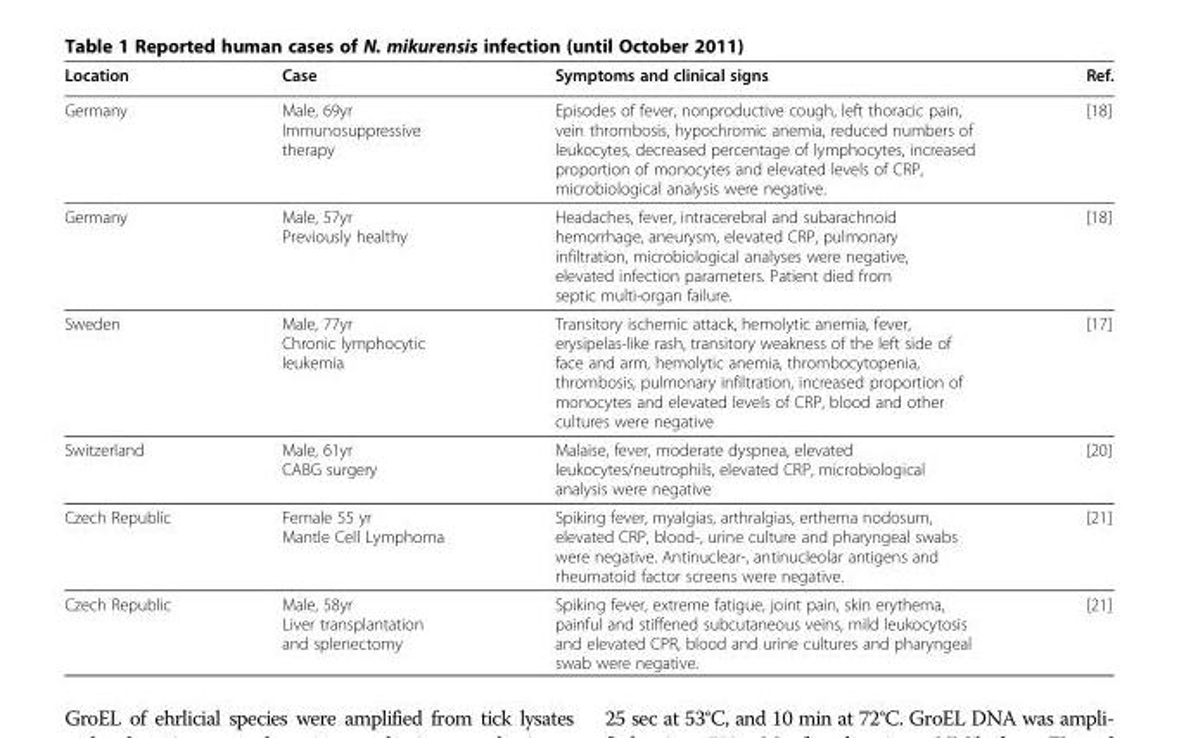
<table><thead><tr><td>Location</td><td>Case</td><td>Symptoms and clinical signs</td><td>Ref.</td></tr></thead><tbody><tr><td>Germany</td><td>Male, 69yr Immunosuppressive therapy</td><td>Episodes of fever, nonproductive cough, left thoracic pain, vein thrombosis, hypochromic anemia, reduced numbers of leukocytes, decreased percentage of lymphocytes, increased proportion of monocytes and elevated levels of CRP, microbiological analysis were negative.</td><td>[18]</td></tr><tr><td>Germany</td><td>Male, 57yr Previously healthy</td><td>Headaches, fever, intracerebral and subarachnoid hemorrhage, aneurysm, elevated CRP, pulmonary infiltration, microbiological analyses were negative, elevated infection parameters. Patient died from septic multi-organ failure.</td><td>[18]</td></tr><tr><td>Sweden</td><td>Male, 77yr Chronic lymphocytic leukemia</td><td>Transitory ischemic attack, hemolytic anemia, fever, erysipelas-like rash, transitory weakness of the left side of face and arm, hemolytic anemia, thrombocytopenia, thrombosis, pulmonary infiltration, increased proportion of monocytes and elevated levels of CRP, blood and other cultures were negative</td><td>[17]</td></tr><tr><td>Switzerland</td><td>Male, 61yr CABG surgery</td><td>Malaise, fever, moderate dyspnea, elevated leukocytes/neutrophils, elevated CRP, microbiological analysis were negative</td><td>[20]</td></tr><tr><td>Czech Republic</td><td>Female 55 yr Mantle Cell Lymphoma</td><td>Spiking fever, myalgias, arthralgias, erthema nodosum, elevated CRP, blood-, urine culture and pharyngeal swabs were negative. Antinuclear-, antinucleolar antigens and rheumatoid factor screens were negative.</td><td>[21]</td></tr><tr><td>Czech Republic</td><td>Male, 58yr Liver transplantation and splenectomy</td><td>Spiking fever, extreme fatigue, joint pain, skin erythema, painful and stiffened subcutaneous veins, mild leukocytosis and elevated CPR, blood and urine cultures and pharyngeal swab were negative.</td><td>[21]</td></tr></tbody></table>